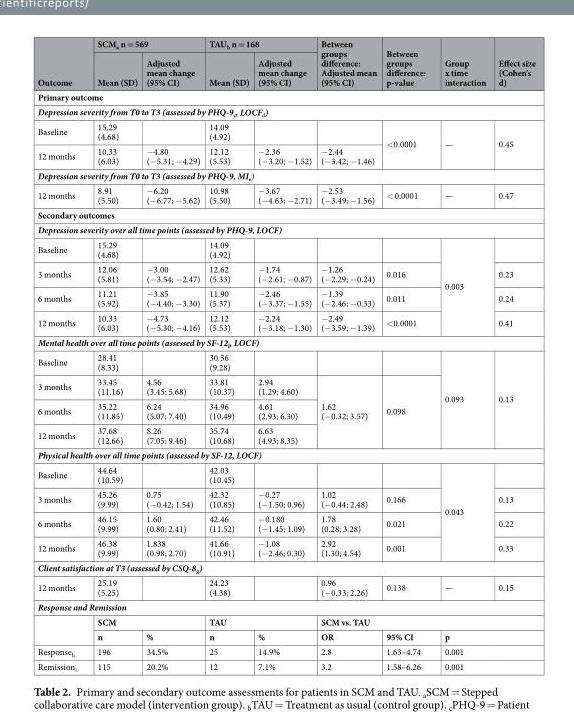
<table><thead><tr><td rowspan="2">Outcome</td><td colspan="2">SCM<sub>a</sub> n = 569</td><td colspan="2">TAU<sub>b</sub> n = 168</td><td rowspan="2">Between groups difference: Adjusted mean (95% CI)</td><td rowspan="2">Between groups difference: p-value</td><td rowspan="2">Group x time interaction</td><td rowspan="2">Effect size (Cohen’s d)</td></tr><tr><td>Mean (SD)</td><td>Adjusted mean change (95% CI)</td><td>Mean (SD)</td><td>Adjusted mean change (95% CI)</td></tr></thead><tbody><tr><td colspan="9">Primary outcome</td></tr><tr><td colspan="9">Depression severity from T0 to T3 (assessed by PHQ-9<sub>c</sub>, LOCF<sub>d</sub>)</td></tr><tr><td>Baseline</td><td>15.29 (4.68)</td><td></td><td>14.09 (4.92)</td><td></td><td></td><td rowspan="2">&lt;0.0001</td><td rowspan="2">—</td><td rowspan="2">0.45</td></tr><tr><td>12 months</td><td>10.33 (6.03)</td><td>−4.80 (−5.31; −4.29)</td><td>12.12 (5.53)</td><td>−2.36 (−3.20; −1.52)</td><td>−2.44 (−3.42; −1.46)</td></tr><tr><td colspan="9">Depression severity from T0 to T3 (assessed by PHQ-9, MI<sub>e</sub>)</td></tr><tr><td>12 months</td><td>8.91 (5.50)</td><td>−6.20 (−6.77; −5.62)</td><td>10.98 (5.50)</td><td>−3.67 (−4.63; −2.71)</td><td>−2.53 (−3.49; −1.56)</td><td>&lt; 0.0001</td><td>—</td><td>0.47</td></tr><tr><td colspan="9">Secondary outcomes</td></tr><tr><td colspan="9">Depression severity over all time points (assessed by PHQ-9, LOCF)</td></tr><tr><td>Baseline</td><td>15.29 (4.68)</td><td></td><td>14.09 (4.92)</td><td></td><td></td><td></td><td rowspan="4">0.003</td><td></td></tr><tr><td>3 months</td><td>12.06 (5.81)</td><td>−3.00 (−3.54; −2.47)</td><td>12.62 (5.33)</td><td>−1.74 (−2.61; −0.87)</td><td>−1.26 (−2.29; −0.24)</td><td>0.016</td><td>0.23</td></tr><tr><td>6 months</td><td>11.21 (5.92)</td><td>−3.85 (−4.40; −3.30)</td><td>11.90 (5.37)</td><td>−2.46 (−3.37; −1.55)</td><td>−1.39 (−2.46; −0.33)</td><td>0.011</td><td>0.24</td></tr><tr><td>12 months</td><td>10.33 (6.03)</td><td>−4.73 (−5.30; −4.16)</td><td>12.12 (5.53)</td><td>−2.24 (−3.18; −1.30)</td><td>−2.49 (−3.59; −1.39)</td><td>&lt;0.0001</td><td>0.41</td></tr><tr><td colspan="9">Mental health over all time points (assessed by SF-12<sub>f</sub>, LOCF)</td></tr><tr><td>Baseline</td><td>28.41 (8.33)</td><td></td><td>30.56 (9.28)</td><td></td><td></td><td></td><td rowspan="4">0.093</td><td rowspan="4">0.13</td></tr><tr><td>3 months</td><td>33.45 (11.16)</td><td>4.56 (3.45; 5.68)</td><td>33.81 (10.37)</td><td>2.94 (1.29; 4.60)</td><td rowspan="3">1.62 (−0.32; 3.57)</td><td rowspan="3">0.098</td></tr><tr><td>6 months</td><td>35.22 (11.85)</td><td>6.24 (5.07; 7.40)</td><td>34.96 (10.49)</td><td>4.61 (2.93; 6.30)</td></tr><tr><td>12 months</td><td>37.68 (12.66)</td><td>8.26 (7.05; 9.46)</td><td>35.74 (10.68)</td><td>6.63 (4.93; 8.35)</td></tr><tr><td colspan="9">Physical health over all time points (assessed by SF-12, LOCF)</td></tr><tr><td>Baseline</td><td>44.64 (10.59)</td><td></td><td>42.03 (10.45)</td><td></td><td></td><td></td><td rowspan="4">0.043</td><td></td></tr><tr><td>3 months</td><td>45.26 (9.99)</td><td>0.75 (−0.42; 1.54)</td><td>42.32 (10.85)</td><td>−0.27 (−1.50; 0.96)</td><td>1.02 (−0.44; 2.48)</td><td>0.166</td><td>0.13</td></tr><tr><td>6 months</td><td>46.15 (9.99)</td><td>1.60 (0.80; 2.41)</td><td>42.46 (11.52)</td><td>−0.180 (−1.45; 1.09)</td><td>1.78 (0.28; 3.28)</td><td>0.021</td><td>0.22</td></tr><tr><td>12 months</td><td>46.38 (9.99)</td><td>1.838 (0.98; 2.70)</td><td>41.66 (10.91)</td><td>−1.08 (−2.46; 0.30)</td><td>2.92 (1.30; 4.54)</td><td>0.001</td><td>0.33</td></tr><tr><td colspan="9">Client satisfaction at T3 (assessed by CSQ-8<sub>g</sub>)</td></tr><tr><td>12 months</td><td>25.19 (5.25)</td><td></td><td>24.23 (4.38)</td><td></td><td>0.96 (−0.33; 2.26)</td><td>0.138</td><td>—</td><td>0.15</td></tr><tr><td colspan="9">Response and Remission</td></tr><tr><td rowspan="2"></td><td colspan="2">SCM</td><td colspan="2">TAU</td><td colspan="4">SCM vs. TAU</td></tr><tr><td>n</td><td>%</td><td>n</td><td>%</td><td>OR</td><td>95% CI</td><td colspan="2">p</td></tr><tr><td>Response<sub>h</sub></td><td>196</td><td>34.5%</td><td>25</td><td>14.9%</td><td>2.8</td><td>1.63–4.74</td><td colspan="2">0.001</td></tr><tr><td>Remission<sub>i</sub></td><td>115</td><td>20.2%</td><td>12</td><td>7.1%</td><td>3.2</td><td>1.58–6.26</td><td colspan="2">0.001</td></tr></tbody></table>